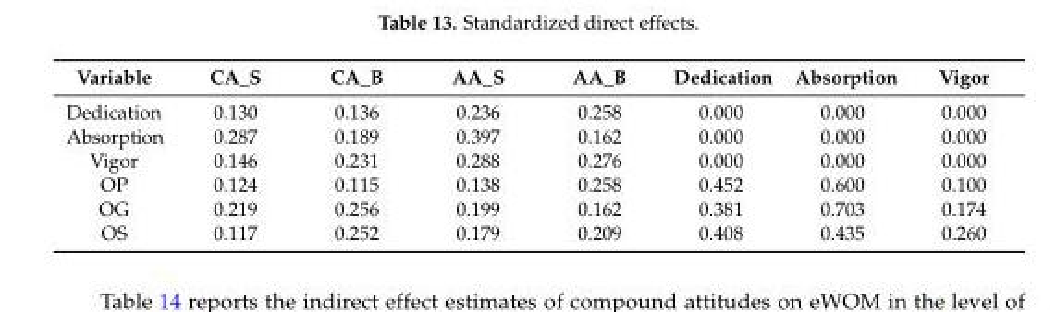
<table><thead><tr><td>Variable</td><td>CA_S</td><td>CA_B</td><td>AA_S</td><td>AA_B</td><td>Dedication</td><td>Absorption</td><td>Vigor</td></tr></thead><tbody><tr><td>Dedication</td><td>0.130</td><td>0.136</td><td>0.236</td><td>0.258</td><td>0.000</td><td>0.000</td><td>0.000</td></tr><tr><td>Absorption</td><td>0.287</td><td>0.189</td><td>0.397</td><td>0.162</td><td>0.000</td><td>0.000</td><td>0.000</td></tr><tr><td>Vigor</td><td>0.146</td><td>0.231</td><td>0.288</td><td>0.276</td><td>0.000</td><td>0.000</td><td>0.000</td></tr><tr><td>OP</td><td>0.124</td><td>0.115</td><td>0.138</td><td>0.258</td><td>0.452</td><td>0.600</td><td>0.100</td></tr><tr><td>OG</td><td>0.219</td><td>0.256</td><td>0.199</td><td>0.162</td><td>0.381</td><td>0.703</td><td>0.174</td></tr><tr><td>OS</td><td>0.117</td><td>0.252</td><td>0.179</td><td>0.209</td><td>0.408</td><td>0.435</td><td>0.260</td></tr></tbody></table>